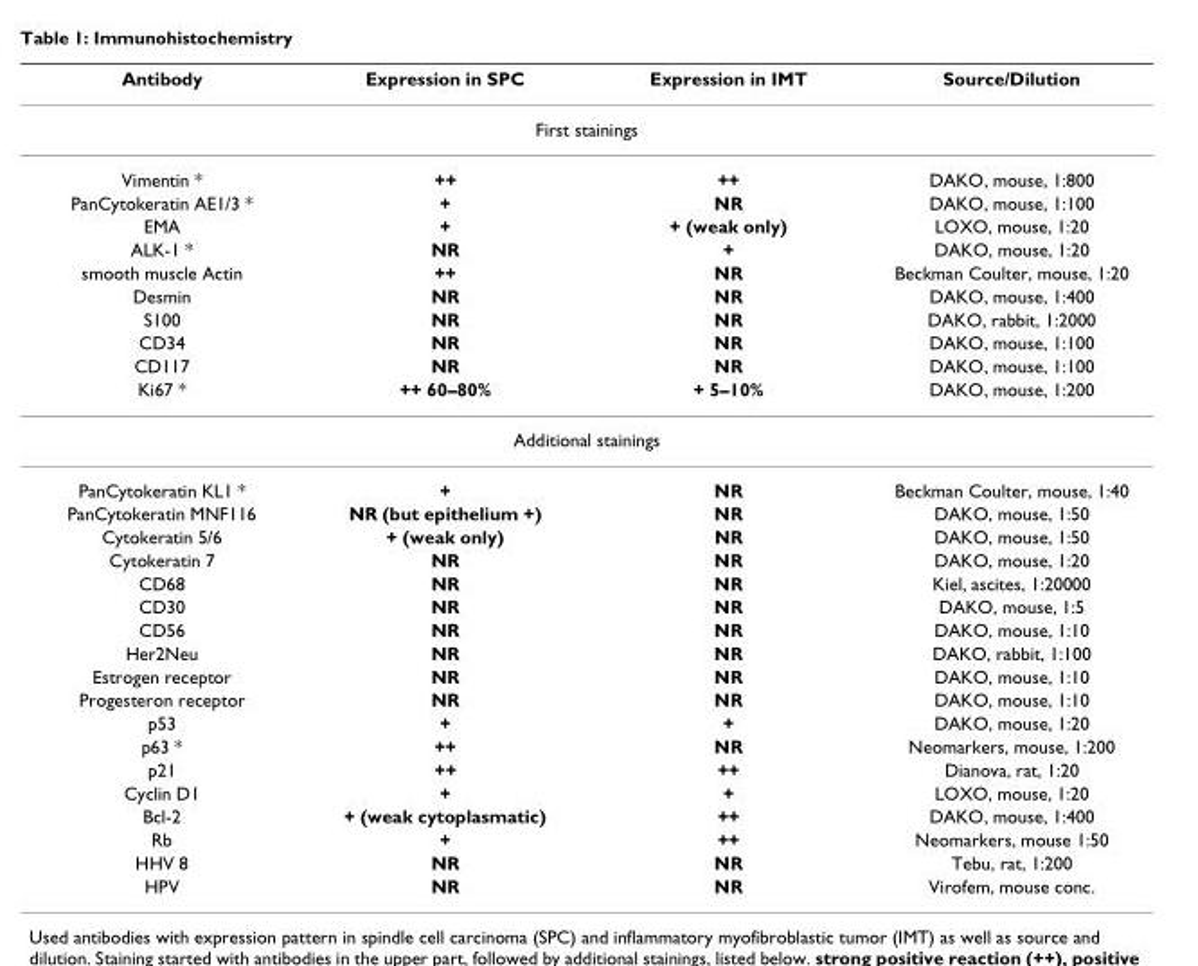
<table><thead><tr><td>Antibody</td><td>Expression in SPC</td><td>Expression in IMT</td><td>Source/Dilution</td></tr></thead><tbody><tr><td colspan="4">First stainings</td></tr><tr><td>Vimentin *</td><td>++</td><td>++</td><td>DAKO, mouse, 1:800</td></tr><tr><td>PanCytokeratin AE1/3 *</td><td>+</td><td>NR</td><td>DAKO, mouse, 1:100</td></tr><tr><td>EMA</td><td>+</td><td>+ (weak only)</td><td>LOXO, mouse, 1:20</td></tr><tr><td>ALK-1 *</td><td>NR</td><td>+</td><td>DAKO, mouse, 1:20</td></tr><tr><td>smooth muscle Actin</td><td>++</td><td>NR</td><td>Beckman Coulter, mouse, 1:20</td></tr><tr><td>Desmin</td><td>NR</td><td>NR</td><td>DAKO, mouse, 1:400</td></tr><tr><td>S100</td><td>NR</td><td>NR</td><td>DAKO, rabbit, 1:2000</td></tr><tr><td>CD34</td><td>NR</td><td>NR</td><td>DAKO, mouse, 1:100</td></tr><tr><td>CD117</td><td>NR</td><td>NR</td><td>DAKO, mouse, 1:100</td></tr><tr><td>Ki67 *</td><td>++ 60–80%</td><td>+ 5–10%</td><td>DAKO, mouse, 1:200</td></tr><tr><td colspan="4">Additional stainings</td></tr><tr><td>PanCytokeratin KL1 *</td><td>+</td><td>NR</td><td>Beckman Coulter, mouse, 1:40</td></tr><tr><td>PanCytokeratin MNF116</td><td>NR (but epithelium +)</td><td>NR</td><td>DAKO, mouse, 1:50</td></tr><tr><td>Cytokeratin 5/6</td><td>+ (weak only)</td><td>NR</td><td>DAKO, mouse, 1:50</td></tr><tr><td>Cytokeratin 7</td><td>NR</td><td>NR</td><td>DAKO, mouse, 1:20</td></tr><tr><td>CD68</td><td>NR</td><td>NR</td><td>Kiel, ascites, 1:20000</td></tr><tr><td>CD30</td><td>NR</td><td>NR</td><td>DAKO, mouse, 1:5</td></tr><tr><td>CD56</td><td>NR</td><td>NR</td><td>DAKO, mouse, 1:10</td></tr><tr><td>Her2Neu</td><td>NR</td><td>NR</td><td>DAKO, rabbit, 1:100</td></tr><tr><td>Estrogen receptor</td><td>NR</td><td>NR</td><td>DAKO, mouse, 1:10</td></tr><tr><td>Progesteron receptor</td><td>NR</td><td>NR</td><td>DAKO, mouse, 1:10</td></tr><tr><td>p53</td><td>+</td><td>+</td><td>DAKO, mouse, 1:20</td></tr><tr><td>p63 *</td><td>++</td><td>NR</td><td>Neomarkers, mouse, 1:200</td></tr><tr><td>p21</td><td>++</td><td>++</td><td>Dianova, rat, 1:20</td></tr><tr><td>Cyclin D1</td><td>+</td><td>+</td><td>LOXO, mouse, 1:20</td></tr><tr><td>Bcl-2</td><td>+ (weak cytoplasmatic)</td><td>++</td><td>DAKO, mouse, 1:400</td></tr><tr><td>Rb</td><td>+</td><td>++</td><td>Neomarkers, mouse 1:50</td></tr><tr><td>HHV 8</td><td>NR</td><td>NR</td><td>Tebu, rat, 1:200</td></tr><tr><td>HPV</td><td>NR</td><td>NR</td><td>Virofem, mouse conc.</td></tr></tbody></table>